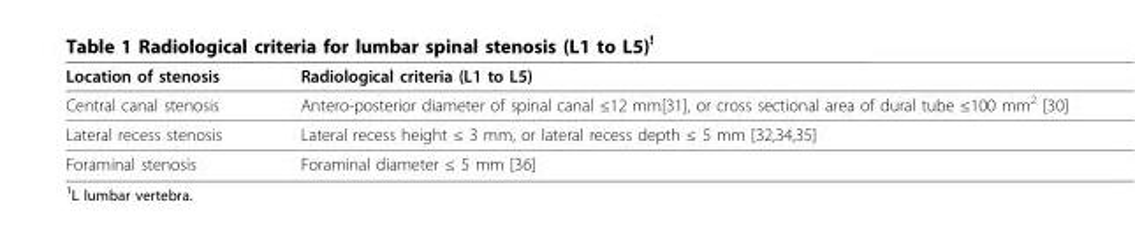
<table><thead><tr><td>Location of stenosis</td><td>Radiological criteria (L1 to L5)</td></tr></thead><tbody><tr><td>Central canal stenosis</td><td>Antero-posterior diameter of spinal canal ≤12 mm[31], or cross sectional area of dural tube ≤100 mm<sup>2</sup> [30]</td></tr><tr><td>Lateral recess stenosis</td><td>Lateral recess height ≤ 3 mm, or lateral recess depth ≤ 5 mm [32,34,35]</td></tr><tr><td>Foraminal stenosis</td><td>Foraminal diameter ≤ 5 mm [36]</td></tr></tbody></table>